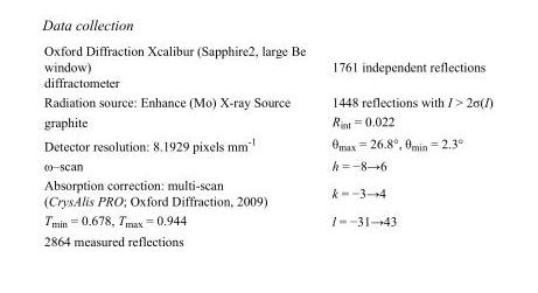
<table><tbody><tr><td>Oxford Diffraction Xcalibur (Sapphire2, large Be window) diffractometer</td><td>1761 independent reflections</td></tr><tr><td>Radiation source: Enhance (Mo) X-ray Source</td><td>1448 reflections with I &gt; 2σ(I)</td></tr><tr><td>graphite</td><td>R<sub>int</sub> = 0.022</td></tr><tr><td>Detector resolution: 8.1929 pixels mm<sup>-1</sup></td><td>θ<sub>max</sub> = 26.8°, θ<sub>min</sub> = 2.3°</td></tr><tr><td>ω–scan</td><td>h = −8→6</td></tr><tr><td>Absorption correction: multi-scan (CrysAlis PRO; Oxford Diffraction, 2009)</td><td>k = −3→4</td></tr><tr><td>T<sub>min</sub> = 0.678, T<sub>max</sub> = 0.944</td><td>l = −31→43</td></tr><tr><td>2864 measured reflections</td><td></td></tr></tbody></table>